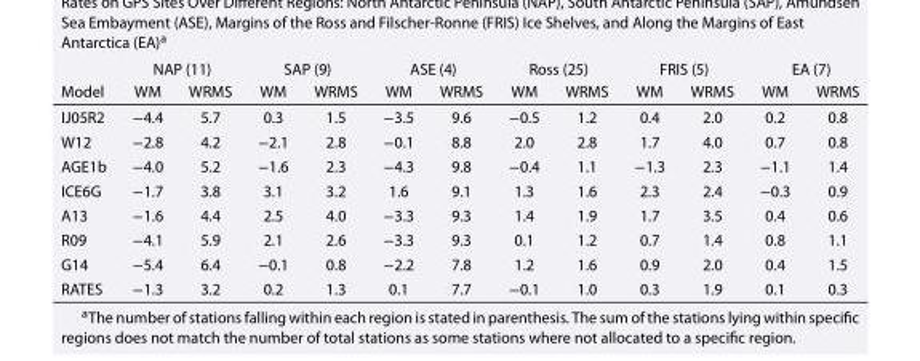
<table><thead><tr><td rowspan="2">Model</td><td colspan="2">NAP (11)</td><td colspan="2">SAP (9)</td><td colspan="2">ASE (4)</td><td colspan="2">Ross (25)</td><td colspan="2">FRIS (5)</td><td colspan="2">EA (7)</td></tr><tr><td>WM</td><td>WRMS</td><td>WM</td><td>WRMS</td><td>WM</td><td>WRMS</td><td>WM</td><td>WRMS</td><td>WM</td><td>WRMS</td><td>WM</td><td>WRMS</td></tr></thead><tbody><tr><td>IJ05R2</td><td>−4.4</td><td>5.7</td><td>0.3</td><td>1.5</td><td>−3.5</td><td>9.6</td><td>−0.5</td><td>1.2</td><td>0.4</td><td>2.0</td><td>0.2</td><td>0.8</td></tr><tr><td>W12</td><td>−2.8</td><td>4.2</td><td>−2.1</td><td>2.8</td><td>−0.1</td><td>8.8</td><td>2.0</td><td>2.8</td><td>1.7</td><td>4.0</td><td>0.7</td><td>0.8</td></tr><tr><td>AGE1b</td><td>−4.0</td><td>5.2</td><td>−1.6</td><td>2.3</td><td>−4.3</td><td>9.8</td><td>−0.4</td><td>1.1</td><td>−1.3</td><td>2.3</td><td>−1.1</td><td>1.4</td></tr><tr><td>ICE6G</td><td>−1.7</td><td>3.8</td><td>3.1</td><td>3.2</td><td>1.6</td><td>9.1</td><td>1.3</td><td>1.6</td><td>2.3</td><td>2.4</td><td>−0.3</td><td>0.9</td></tr><tr><td>A13</td><td>−1.6</td><td>4.4</td><td>2.5</td><td>4.0</td><td>−3.3</td><td>9.3</td><td>1.4</td><td>1.9</td><td>1.7</td><td>3.5</td><td>0.4</td><td>0.6</td></tr><tr><td>R09</td><td>−4.1</td><td>5.9</td><td>2.1</td><td>2.6</td><td>−3.3</td><td>9.3</td><td>0.1</td><td>1.2</td><td>0.7</td><td>1.4</td><td>0.8</td><td>1.1</td></tr><tr><td>G14</td><td>−5.4</td><td>6.4</td><td>−0.1</td><td>0.8</td><td>−2.2</td><td>7.8</td><td>1.2</td><td>1.6</td><td>0.9</td><td>2.0</td><td>0.4</td><td>1.5</td></tr><tr><td>RATES</td><td>−1.3</td><td>3.2</td><td>0.2</td><td>1.3</td><td>0.1</td><td>7.7</td><td>−0.1</td><td>1.0</td><td>0.3</td><td>1.9</td><td>0.1</td><td>0.3</td></tr></tbody></table>